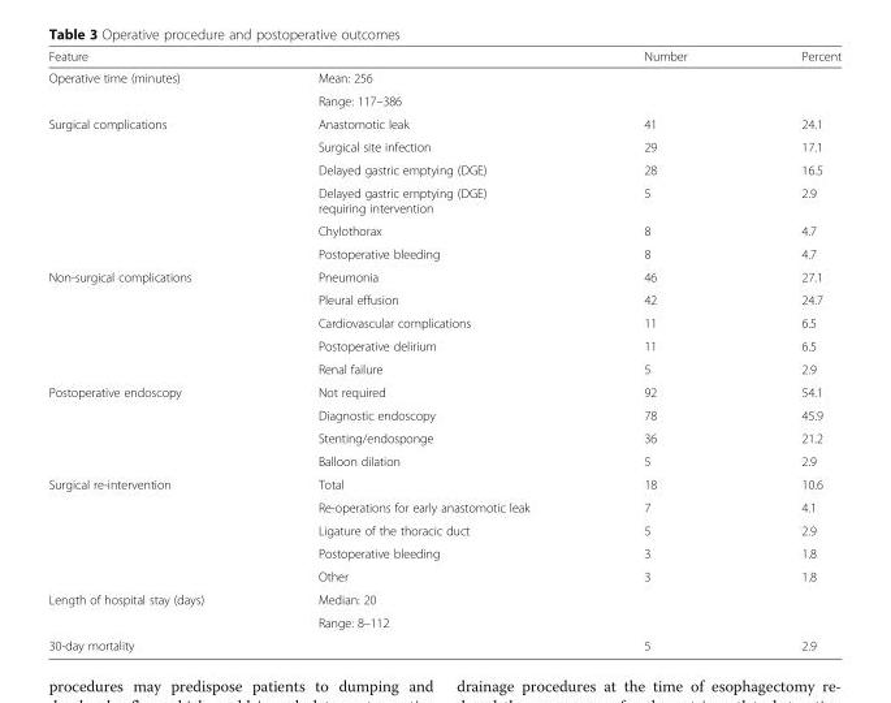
<table><thead><tr><td>Feature</td><td></td><td>Number</td><td>Percent</td></tr></thead><tbody><tr><td rowspan="2">Operative time (minutes)</td><td>Mean: 256</td><td rowspan="2"></td><td rowspan="2"></td></tr><tr><td>Range: 117–386</td></tr><tr><td rowspan="6">Surgical complications</td><td>Anastomotic leak</td><td>41</td><td>24.1</td></tr><tr><td>Surgical site infection</td><td>29</td><td>17.1</td></tr><tr><td>Delayed gastric emptying (DGE)</td><td>28</td><td>16.5</td></tr><tr><td>Delayed gastric emptying (DGE) requiring intervention</td><td>5</td><td>2.9</td></tr><tr><td>Chylothorax</td><td>8</td><td>4.7</td></tr><tr><td>Postoperative bleeding</td><td>8</td><td>4.7</td></tr><tr><td rowspan="5">Non-surgical complications</td><td>Pneumonia</td><td>46</td><td>27.1</td></tr><tr><td>Pleural effusion</td><td>42</td><td>24.7</td></tr><tr><td>Cardiovascular complications</td><td>11</td><td>6.5</td></tr><tr><td>Postoperative delirium</td><td>11</td><td>6.5</td></tr><tr><td>Renal failure</td><td>5</td><td>2.9</td></tr><tr><td rowspan="4">Postoperative endoscopy</td><td>Not required</td><td>92</td><td>54.1</td></tr><tr><td>Diagnostic endoscopy</td><td>78</td><td>45.9</td></tr><tr><td>Stenting/endosponge</td><td>36</td><td>21.2</td></tr><tr><td>Balloon dilation</td><td>5</td><td>2.9</td></tr><tr><td rowspan="5">Surgical re-intervention</td><td>Total</td><td>18</td><td>10.6</td></tr><tr><td>Re-operations for early anastomotic leak</td><td>7</td><td>4.1</td></tr><tr><td>Ligature of the thoracic duct</td><td>5</td><td>2.9</td></tr><tr><td>Postoperative bleeding</td><td>3</td><td>1.8</td></tr><tr><td>Other</td><td>3</td><td>1.8</td></tr><tr><td rowspan="2">Length of hospital stay (days)</td><td>Median: 20</td><td rowspan="2"></td><td rowspan="2"></td></tr><tr><td>Range: 8–112</td></tr><tr><td>30-day mortality</td><td></td><td>5</td><td>2.9</td></tr></tbody></table>